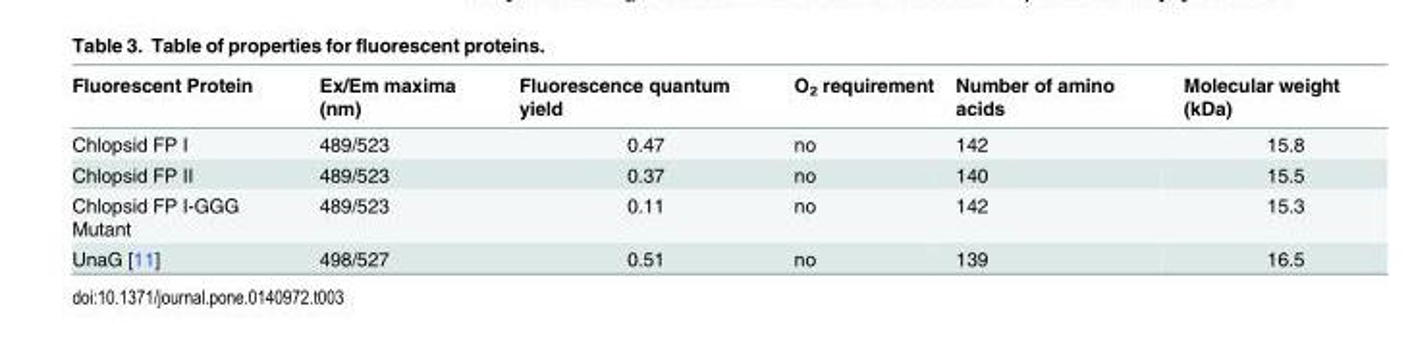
<table><thead><tr><td>Fluorescent Protein</td><td>Ex/Em maxima (nm)</td><td>Fluorescence quantum yield</td><td>O<sub>2</sub> requirement</td><td>Number of amino acids</td><td>Molecular weight (kDa)</td></tr></thead><tbody><tr><td>Chlopsid FP I</td><td>489/523</td><td>0.47</td><td>no</td><td>142</td><td>15.8</td></tr><tr><td>Chlopsid FP II</td><td>489/523</td><td>0.37</td><td>no</td><td>140</td><td>15.5</td></tr><tr><td>Chlopsid FP I-GGG Mutant</td><td>489/523</td><td>0.11</td><td>no</td><td>142</td><td>15.3</td></tr><tr><td>UnaG [11]</td><td>498/527</td><td>0.51</td><td>no</td><td>139</td><td>16.5</td></tr></tbody></table>